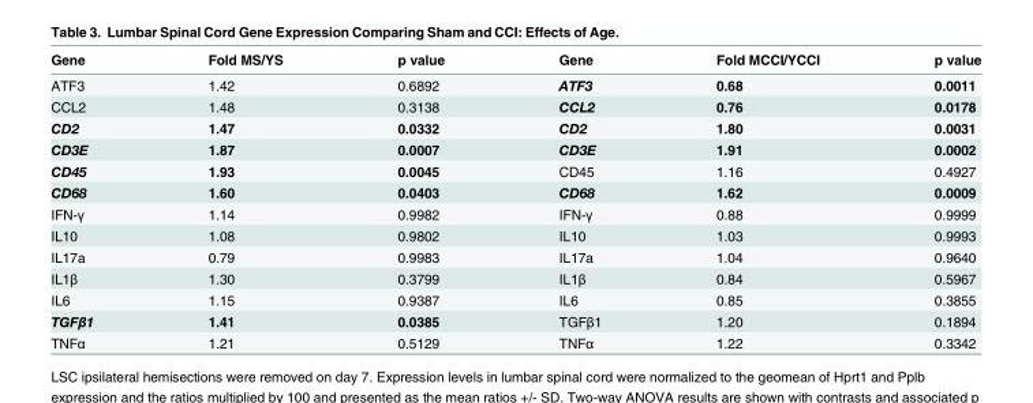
<table><thead><tr><td>Gene</td><td>Fold MS/YS</td><td>p value</td><td>Gene</td><td>Fold MCCI/YCCI</td><td>p value</td></tr></thead><tbody><tr><td>ATF3</td><td>1.42</td><td>0.6892</td><td>ATF3</td><td>0.68</td><td>0.0011</td></tr><tr><td>CCL2</td><td>1.48</td><td>0.3138</td><td>CCL2</td><td>0.76</td><td>0.0178</td></tr><tr><td>CD2</td><td>1.47</td><td>0.0332</td><td>CD2</td><td>1.80</td><td>0.0031</td></tr><tr><td>CD3E</td><td>1.87</td><td>0.0007</td><td>CD3E</td><td>1.91</td><td>0.0002</td></tr><tr><td>CD45</td><td>1.93</td><td>0.0045</td><td>CD45</td><td>1.16</td><td>0.4927</td></tr><tr><td>CD68</td><td>1.60</td><td>0.0403</td><td>CD68</td><td>1.62</td><td>0.0009</td></tr><tr><td>IFN-γ</td><td>1.14</td><td>0.9982</td><td>IFN-γ</td><td>0.88</td><td>0.9999</td></tr><tr><td>IL10</td><td>1.08</td><td>0.9802</td><td>IL10</td><td>1.03</td><td>0.9993</td></tr><tr><td>IL17a</td><td>0.79</td><td>0.9983</td><td>IL17a</td><td>1.04</td><td>0.9640</td></tr><tr><td>IL1β</td><td>1.30</td><td>0.3799</td><td>IL1β</td><td>0.84</td><td>0.5967</td></tr><tr><td>IL6</td><td>1.15</td><td>0.9387</td><td>IL6</td><td>0.85</td><td>0.3855</td></tr><tr><td>TGFβ1</td><td>1.41</td><td>0.0385</td><td>TGFβ1</td><td>1.20</td><td>0.1894</td></tr><tr><td>TNFα</td><td>1.21</td><td>0.5129</td><td>TNFα</td><td>1.22</td><td>0.3342</td></tr></tbody></table>